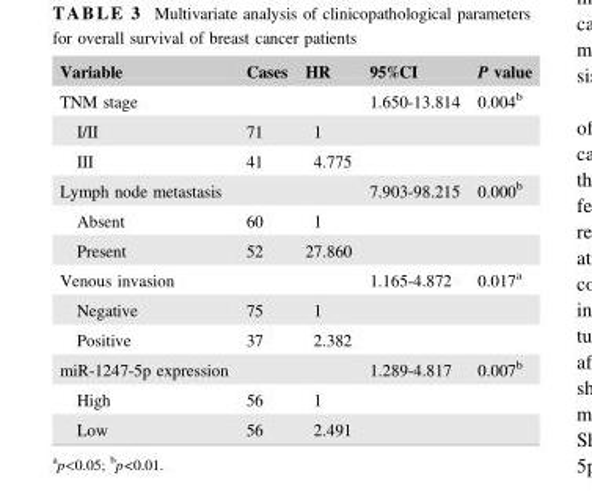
<table><thead><tr><td>Variable</td><td>Cases</td><td>HR</td><td>95%CI</td><td>P value</td></tr></thead><tbody><tr><td>TNM stage</td><td></td><td></td><td>1.650‐13.814</td><td>0.004<sup>b</sup></td></tr><tr><td>I/II</td><td>71</td><td>1</td><td></td><td></td></tr><tr><td>III</td><td>41</td><td>4.775</td><td></td><td></td></tr><tr><td>Lymph node metastasis</td><td></td><td></td><td>7.903‐98.215</td><td>0.000<sup>b</sup></td></tr><tr><td>Absent</td><td>60</td><td>1</td><td></td><td></td></tr><tr><td>Present</td><td>52</td><td>27.860</td><td></td><td></td></tr><tr><td>Venous invasion</td><td></td><td></td><td>1.165‐4.872</td><td>0.017<sup>a</sup></td></tr><tr><td>Negative</td><td>75</td><td>1</td><td></td><td></td></tr><tr><td>Positive</td><td>37</td><td>2.382</td><td></td><td></td></tr><tr><td>miR‐1247‐5p expression</td><td></td><td></td><td>1.289‐4.817</td><td>0.007<sup>b</sup></td></tr><tr><td>High</td><td>56</td><td>1</td><td></td><td></td></tr><tr><td>Low</td><td>56</td><td>2.491</td><td></td><td></td></tr></tbody></table>